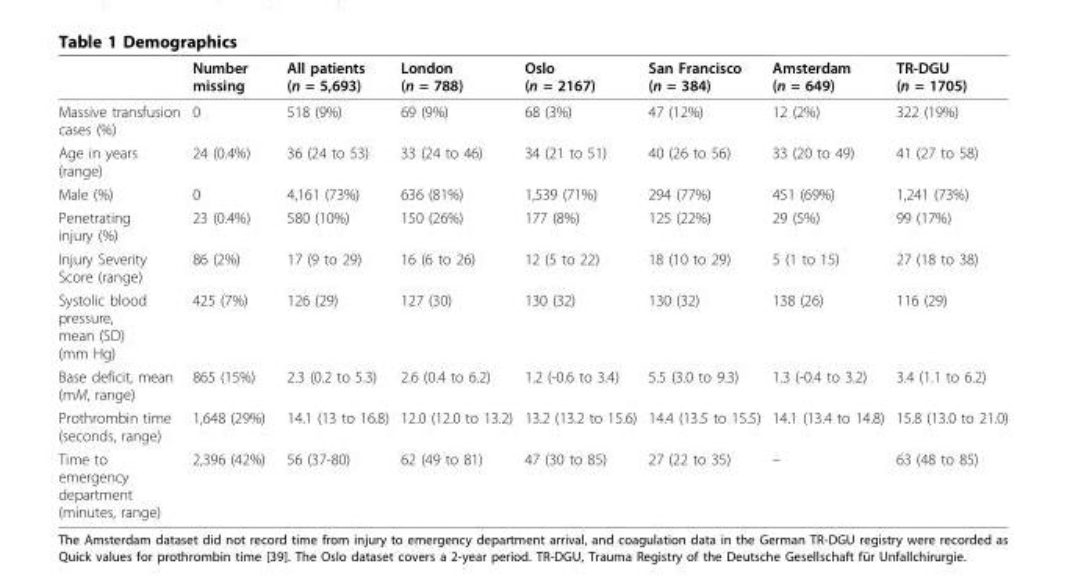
<table><thead><tr><td></td><td>Number missing</td><td>All patients (n = 5,693)</td><td>London (n = 788)</td><td>Oslo (n = 2167)</td><td>San Francisco (n = 384)</td><td>Amsterdam (n = 649)</td><td>TR-DGU (n = 1705)</td></tr></thead><tbody><tr><td>Massive transfusion cases (%)</td><td>0</td><td>518 (9%)</td><td>69 (9%)</td><td>68 (3%)</td><td>47 (12%)</td><td>12 (2%)</td><td>322 (19%)</td></tr><tr><td>Age in years (range)</td><td>24 (0.4%)</td><td>36 (24 to 53)</td><td>33 (24 to 46)</td><td>34 (21 to 51)</td><td>40 (26 to 56)</td><td>33 (20 to 49)</td><td>41 (27 to 58)</td></tr><tr><td>Male (%)</td><td>0</td><td>4,161 (73%)</td><td>636 (81%)</td><td>1,539 (71%)</td><td>294 (77%)</td><td>451 (69%)</td><td>1,241 (73%)</td></tr><tr><td>Penetrating injury (%)</td><td>23 (0.4%)</td><td>580 (10%)</td><td>150 (26%)</td><td>177 (8%)</td><td>125 (22%)</td><td>29 (5%)</td><td>99 (17%)</td></tr><tr><td>Injury Severity Score (range)</td><td>86 (2%)</td><td>17 (9 to 29)</td><td>16 (6 to 26)</td><td>12 (5 to 22)</td><td>18 (10 to 29)</td><td>5 (1 to 15)</td><td>27 (18 to 38)</td></tr><tr><td>Systolic blood pressure, mean (SD) (mm Hg)</td><td>425 (7%)</td><td>126 (29)</td><td>127 (30)</td><td>130 (32)</td><td>130 (32)</td><td>138 (26)</td><td>116 (29)</td></tr><tr><td>Base deficit, mean (mM, range)</td><td>865 (15%)</td><td>2.3 (0.2 to 5.3)</td><td>2.6 (0.4 to 6.2)</td><td>1.2 (-0.6 to 3.4)</td><td>5.5 (3.0 to 9.3)</td><td>1.3 (-0.4 to 3.2)</td><td>3.4 (1.1 to 6.2)</td></tr><tr><td>Prothrombin time (seconds, range)</td><td>1,648 (29%)</td><td>14.1 (13 to 16.8)</td><td>12.0 (12.0 to 13.2)</td><td>13.2 (13.2 to 15.6)</td><td>14.4 (13.5 to 15.5)</td><td>14.1 (13.4 to 14.8)</td><td>15.8 (13.0 to 21.0)</td></tr><tr><td>Time to emergency department (minutes, range)</td><td>2,396 (42%)</td><td>56 (37-80)</td><td>62 (49 to 81)</td><td>47 (30 to 85)</td><td>27 (22 to 35)</td><td>–</td><td>63 (48 to 85)</td></tr></tbody></table>